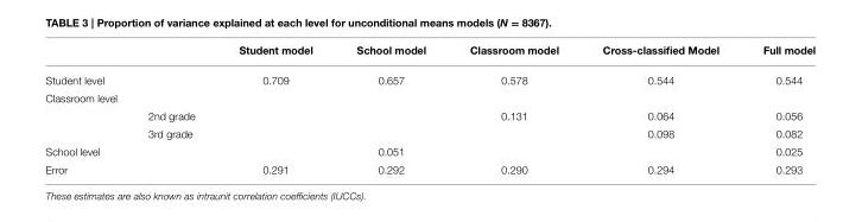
<table><thead><tr><td></td><td></td><td>Student model</td><td>School model</td><td>Classroom model</td><td>Cross-classified Model</td><td>Full model</td></tr></thead><tbody><tr><td>Student level</td><td></td><td>0.709</td><td>0.657</td><td>0.578</td><td>0.544</td><td>0.544</td></tr><tr><td colspan="7">Classroom level</td></tr><tr><td></td><td>2nd grade</td><td></td><td></td><td>0.131</td><td>0.064</td><td>0.056</td></tr><tr><td></td><td>3rd grade</td><td></td><td></td><td></td><td>0.098</td><td>0.082</td></tr><tr><td>School level</td><td></td><td></td><td>0.051</td><td></td><td></td><td>0.025</td></tr><tr><td>Error</td><td></td><td>0.291</td><td>0.292</td><td>0.290</td><td>0.294</td><td>0.293</td></tr></tbody></table>